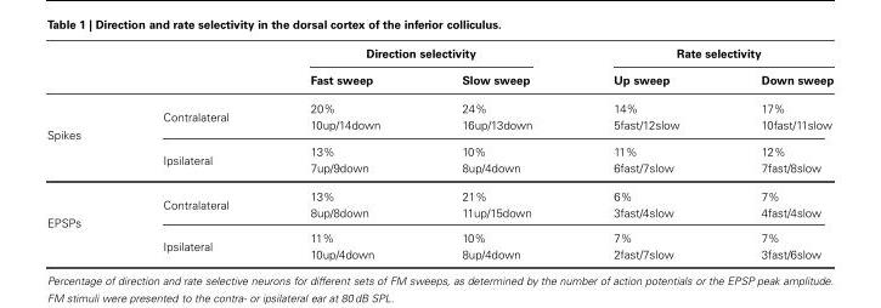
<table><thead><tr><td rowspan="2"></td><td rowspan="2"></td><td colspan="2">Direction selectivity</td><td colspan="2">Rate selectivity</td></tr><tr><td>Fast sweep</td><td>Slow sweep</td><td>Up sweep</td><td>Down sweep</td></tr></thead><tbody><tr><td rowspan="4">Spikes</td><td rowspan="2">Contralateral</td><td>20%</td><td>24%</td><td>14%</td><td>17%</td></tr><tr><td>10up/14down</td><td>16up/13down</td><td>5fast/12slow</td><td>10fast/11slow</td></tr><tr><td rowspan="2">Ipsilateral</td><td>13%</td><td>10%</td><td>11%</td><td>12%</td></tr><tr><td>7up/9down</td><td>8up/4down</td><td>6fast/7slow</td><td>7fast/8slow</td></tr><tr><td rowspan="4">EPSPs</td><td rowspan="2">Contralateral</td><td>13%</td><td>21%</td><td>6%</td><td>7%</td></tr><tr><td>8up/8down</td><td>11up/15down</td><td>3fast/4slow</td><td>4fast/4slow</td></tr><tr><td rowspan="2">Ipsilateral</td><td>11%</td><td>10%</td><td>7%</td><td>7%</td></tr><tr><td>10up/4down</td><td>8up/4down</td><td>2fast/7slow</td><td>3fast/6slow</td></tr></tbody></table>